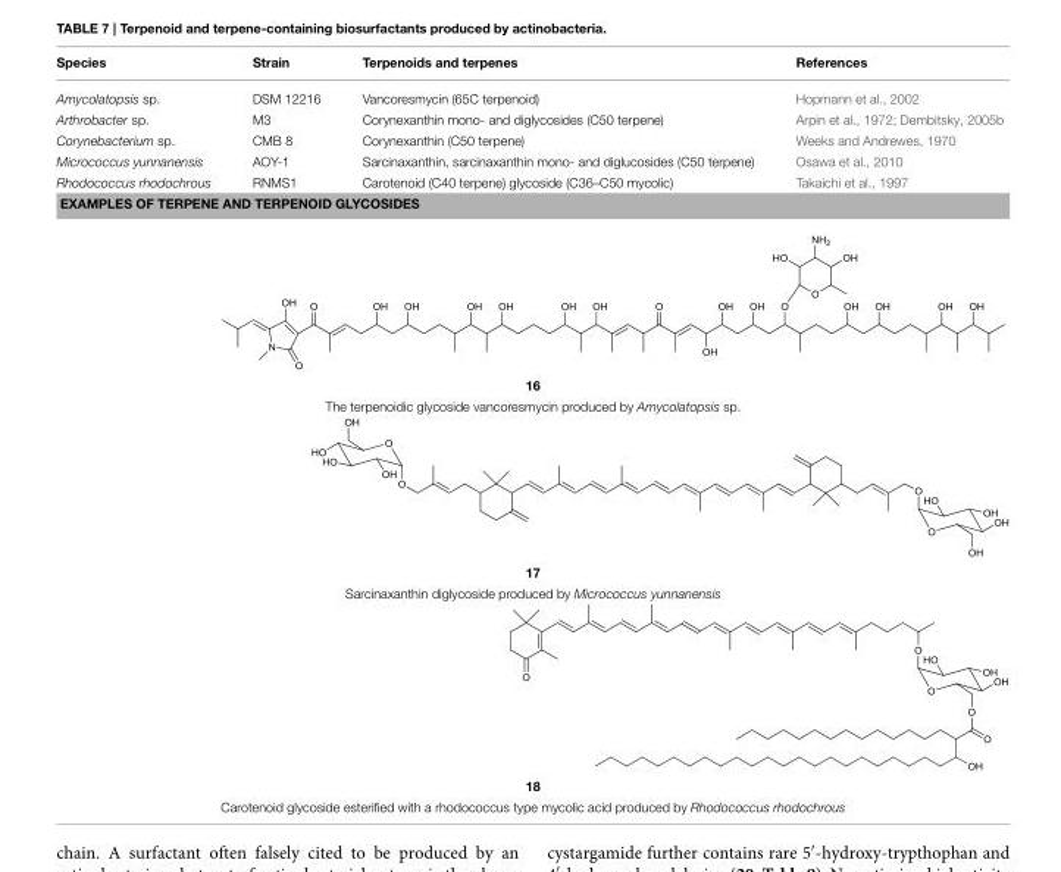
<table><thead><tr><td>Species</td><td>Strain</td><td>Terpenoids and terpenes</td><td>References</td></tr></thead><tbody><tr><td>Amycolatopsis sp.</td><td>DSM 12216</td><td>Vancoresmycin (65C terpenoid)</td><td>Hopmann et al., 2002</td></tr><tr><td>Arthrobacter sp.</td><td>M3</td><td>Corynexanthin mono- and diglycosides (C50 terpene)</td><td>Arpin et al., 1972; Dembitsky, 2005b</td></tr><tr><td>Corynebacterium sp.</td><td>CMB 8</td><td>Corynexanthin (C50 terpene)</td><td>Weeks and Andrewes, 1970</td></tr><tr><td>Micrococcus yunnanensis</td><td>AOY-1</td><td>Sarcinaxanthin, sarcinaxanthin mono- and diglucosides (C50 terpene)</td><td>Osawa et al., 2010</td></tr><tr><td>Rhodococcus rhodochrous</td><td>RNMS1</td><td>Carotenoid (C40 terpene) glycoside (C36–C50 mycolic)</td><td>Takaichi et al., 1997</td></tr><tr><td colspan="4">EXAMPLES OF TERPENE AND TERPENOID GLYCOSIDES</td></tr><tr><td colspan="4">16</td></tr><tr><td colspan="4">The terpenoidic glycoside vancoresmycin produced by Amycolatopsis sp.</td></tr><tr><td colspan="4">17</td></tr><tr><td colspan="4">Sarcinaxanthin diglycoside produced by Micrococcus yunnanensis</td></tr><tr><td colspan="4">18</td></tr><tr><td colspan="4">Carotenoid glycoside esterified with a rhodococcus type mycolic acid produced by Rhodococcus rhodochrous</td></tr></tbody></table>